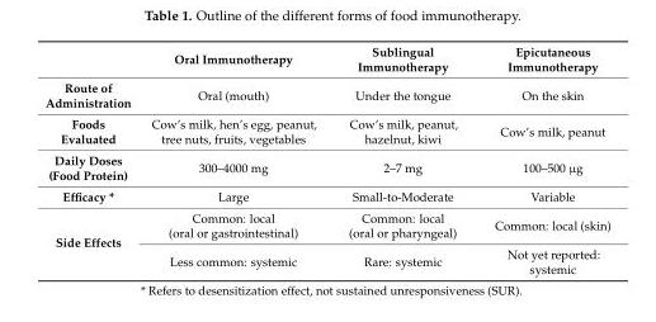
<table><thead><tr><td></td><td>Oral Immunotherapy</td><td>Sublingual Immunotherapy</td><td>Epicutaneous Immunotherapy</td></tr></thead><tbody><tr><td>Route of Administration</td><td>Oral (mouth)</td><td>Under the tongue</td><td>On the skin</td></tr><tr><td>Foods Evaluated</td><td>Cow’s milk, hen’s egg, peanut, tree nuts, fruits, vegetables</td><td>Cow’s milk, peanut, hazelnut, kiwi</td><td>Cow’s milk, peanut</td></tr><tr><td>Daily Doses (Food Protein)</td><td>300–4000 mg</td><td>2–7 mg</td><td>100–500 µg</td></tr><tr><td>Efficacy *</td><td>Large</td><td>Small-to-Moderate</td><td>Variable</td></tr><tr><td rowspan="2">Side Effects</td><td>Common: local (oral or gastrointestinal)</td><td>Common: local (oral or pharyngeal)</td><td>Common: local (skin)</td></tr><tr><td>Less common: systemic</td><td>Rare: systemic</td><td>Not yet reported: systemic</td></tr></tbody></table>